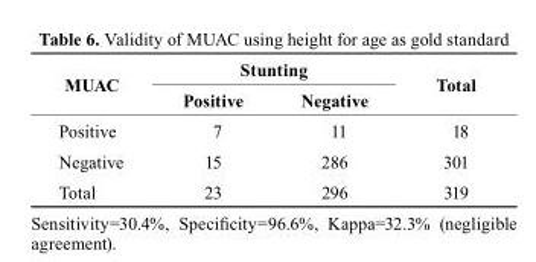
<table><thead><tr><td rowspan="2">MUAc</td><td colspan="2">stunting</td><td rowspan="2">total</td></tr><tr><td>Positive</td><td>Negative</td></tr></thead><tbody><tr><td>Positive</td><td>7</td><td>11</td><td>18</td></tr><tr><td>Negative</td><td>15</td><td>286</td><td>301</td></tr><tr><td>Total</td><td>23</td><td>296</td><td>319</td></tr></tbody></table>